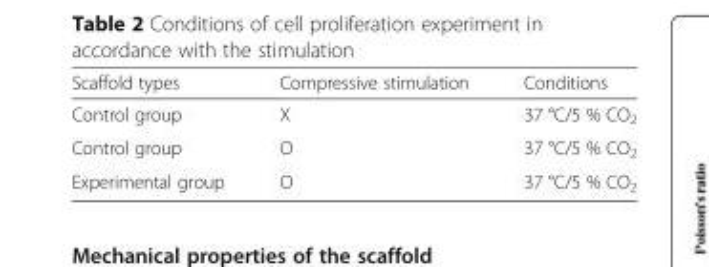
<table><thead><tr><td>Scaffold types</td><td>Compressive stimulation</td><td>Conditions</td></tr></thead><tbody><tr><td>Control group</td><td>X</td><td>37 °C/5 % CO<sub>2</sub></td></tr><tr><td>Control group</td><td>O</td><td>37 °C/5 % CO<sub>2</sub></td></tr><tr><td>Experimental group</td><td>O</td><td>37 °C/5 % CO<sub>2</sub></td></tr></tbody></table>